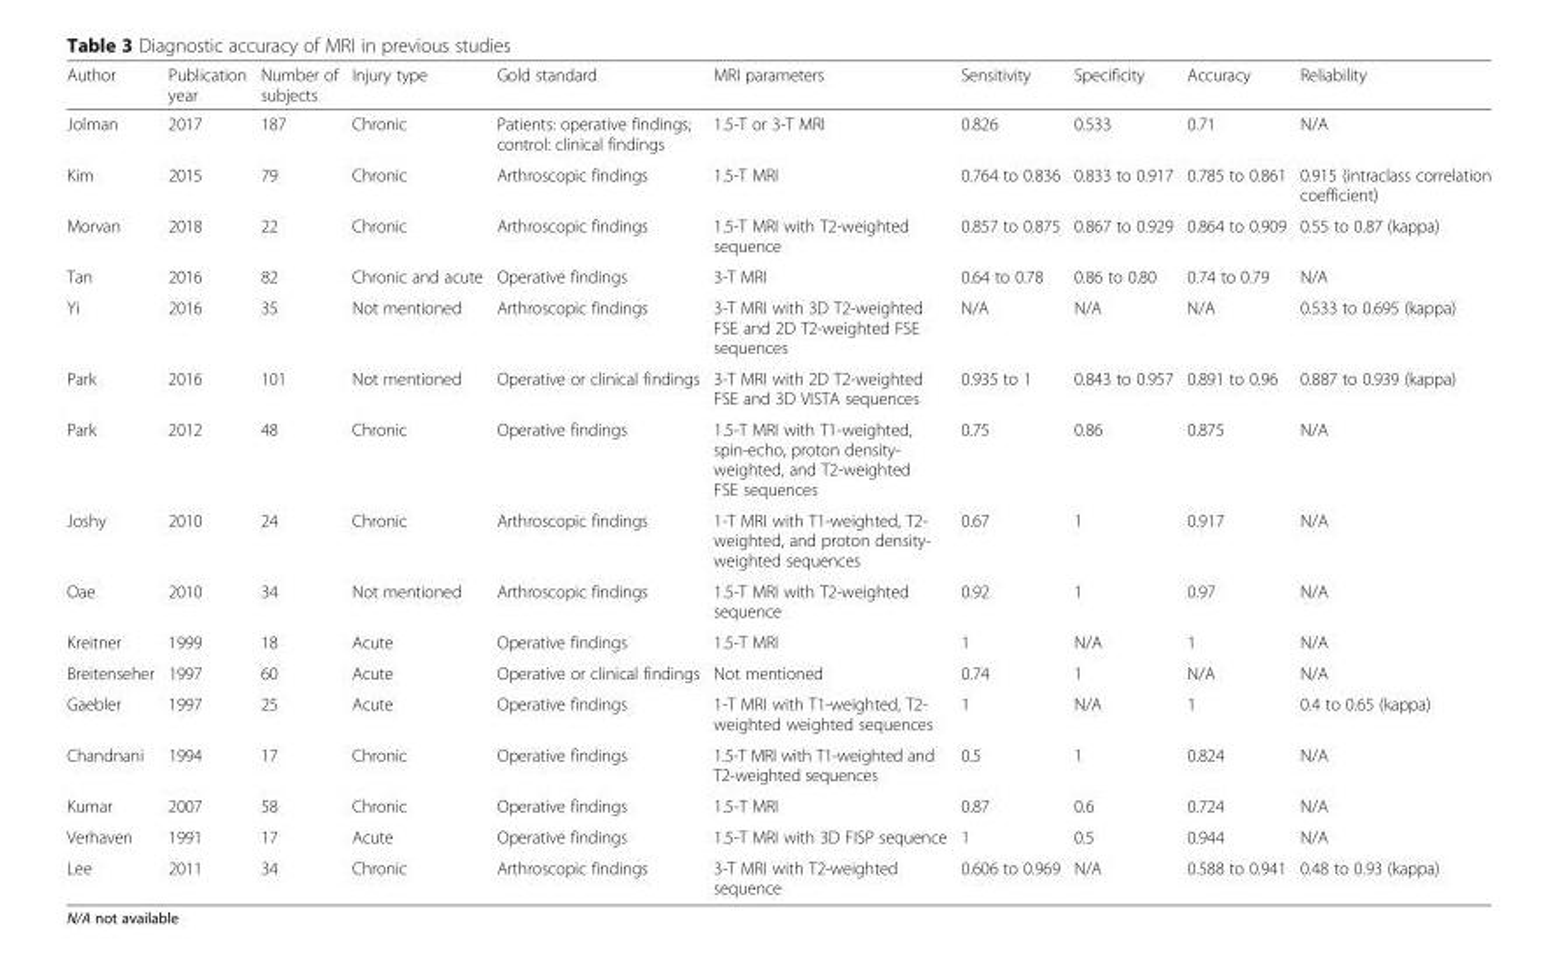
<table><thead><tr><td>Author</td><td>Publication year</td><td>Number of subjects</td><td>Injury type</td><td>Gold standard</td><td>MRI parameters</td><td>Sensitivity</td><td>Specificity</td><td>Accuracy</td><td>Reliability</td></tr></thead><tbody><tr><td>Jolman</td><td>2017</td><td>187</td><td>Chronic</td><td>Patients: operative findings; control: clinical findings</td><td>1.5-T or 3-T MRI</td><td>0.826</td><td>0.533</td><td>0.71</td><td>N/A</td></tr><tr><td>Kim</td><td>2015</td><td>79</td><td>Chronic</td><td>Arthroscopic findings</td><td>1.5-T MRI</td><td>0.764 to 0.836</td><td>0.833 to 0.917</td><td>0.785 to 0.861</td><td>0.915 (intraclass correlation coefficient)</td></tr><tr><td>Morvan</td><td>2018</td><td>22</td><td>Chronic</td><td>Arthroscopic findings</td><td>1.5-T MRI with T2-weighted sequence</td><td>0.857 to 0.875</td><td>0.867 to 0.929</td><td>0.864 to 0.909</td><td>0.55 to 0.87 (kappa)</td></tr><tr><td>Tan</td><td>2016</td><td>82</td><td>Chronic and acute</td><td>Operative findings</td><td>3-T MRI</td><td>0.64 to 0.78</td><td>0.86 to 0.80</td><td>0.74 to 0.79</td><td>N/A</td></tr><tr><td>Yi</td><td>2016</td><td>35</td><td>Not mentioned</td><td>Arthroscopic findings</td><td>3-T MRI with 3D T2-weighted FSE and 2D T2-weighted FSE sequences</td><td>N/A</td><td>N/A</td><td>N/A</td><td>0.533 to 0.695 (kappa)</td></tr><tr><td>Park</td><td>2016</td><td>101</td><td>Not mentioned</td><td>Operative or clinical findings</td><td>3-T MRI with 2D T2-weighted FSE and 3D VISTA sequences</td><td>0.935 to 1</td><td>0.843 to 0.957</td><td>0.891 to 0.96</td><td>0.887 to 0.939 (kappa)</td></tr><tr><td>Park</td><td>2012</td><td>48</td><td>Chronic</td><td>Operative findings</td><td>1.5-T MRI with T1-weighted, spin-echo, proton density- weighted, and T2-weighted FSE sequences</td><td>0.75</td><td>0.86</td><td>0.875</td><td>N/A</td></tr><tr><td>Joshy</td><td>2010</td><td>24</td><td>Chronic</td><td>Arthroscopic findings</td><td>1-T MRI with T1-weighted, T2- weighted, and proton density- weighted sequences</td><td>0.67</td><td>1</td><td>0.917</td><td>N/A</td></tr><tr><td>Oae</td><td>2010</td><td>34</td><td>Not mentioned</td><td>Arthroscopic findings</td><td>1.5-T MRI with T2-weighted sequence</td><td>0.92</td><td>1</td><td>0.97</td><td>N/A</td></tr><tr><td>Kreitner</td><td>1999</td><td>18</td><td>Acute</td><td>Operative findings</td><td>1.5-T MRI</td><td>1</td><td>N/A</td><td>1</td><td>N/A</td></tr><tr><td>Breitenseher</td><td>1997</td><td>60</td><td>Acute</td><td>Operative or clinical findings</td><td>Not mentioned</td><td>0.74</td><td>1</td><td>N/A</td><td>N/A</td></tr><tr><td>Gaebler</td><td>1997</td><td>25</td><td>Acute</td><td>Operative findings</td><td>1-T MRI with T1-weighted, T2- weighted weighted sequences</td><td>1</td><td>N/A</td><td>1</td><td>0.4 to 0.65 (kappa)</td></tr><tr><td>Chandnani</td><td>1994</td><td>17</td><td>Chronic</td><td>Operative findings</td><td>1.5-T MRI with T1-weighted and T2-weighted sequences</td><td>0.5</td><td>1</td><td>0.824</td><td>N/A</td></tr><tr><td>Kumar</td><td>2007</td><td>58</td><td>Chronic</td><td>Operative findings</td><td>1.5-T MRI</td><td>0.87</td><td>0.6</td><td>0.724</td><td>N/A</td></tr><tr><td>Verhaven</td><td>1991</td><td>17</td><td>Acute</td><td>Operative findings</td><td>1.5-T MRI with 3D FISP sequence</td><td>1</td><td>0.5</td><td>0.944</td><td>N/A</td></tr><tr><td>Lee</td><td>2011</td><td>34</td><td>Chronic</td><td>Arthroscopic findings</td><td>3-T MRI with T2-weighted sequence</td><td>0.606 to 0.969</td><td>N/A</td><td>0.588 to 0.941</td><td>0.48 to 0.93 (kappa)</td></tr></tbody></table>